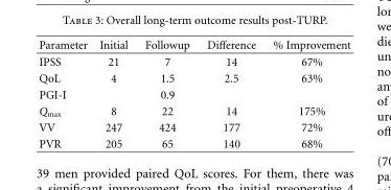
<table><thead><tr><td>Parameter</td><td>Initial</td><td>Followup</td><td>Difference</td><td>% Improvement</td></tr></thead><tbody><tr><td>IPSS</td><td>21</td><td>7</td><td>14</td><td>67%</td></tr><tr><td>QoL</td><td>4</td><td>1.5</td><td>2.5</td><td>63%</td></tr><tr><td>PGI-I</td><td></td><td>0.9</td><td></td><td></td></tr><tr><td>Q<sub>max</sub></td><td>8</td><td>22</td><td>14</td><td>175%</td></tr><tr><td>VV</td><td>247</td><td>424</td><td>177</td><td>72%</td></tr><tr><td>PVR</td><td>205</td><td>65</td><td>140</td><td>68%</td></tr></tbody></table>